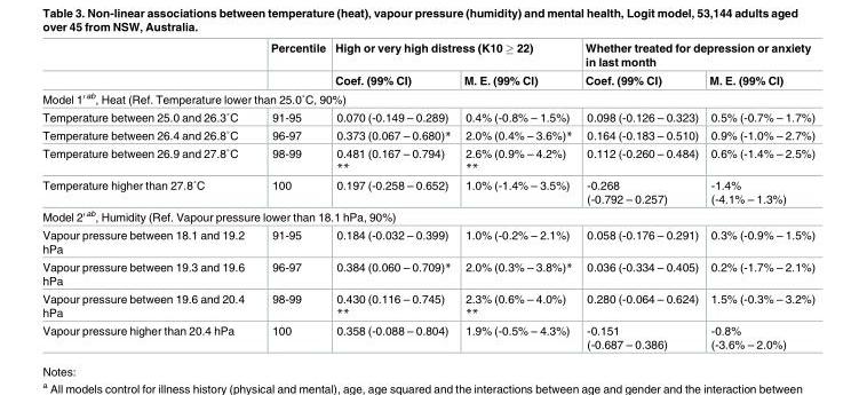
<table><thead><tr><td rowspan="2"></td><td rowspan="2">Percentile</td><td colspan="2">High or very high distress (K10 ≥ 22)</td><td colspan="2">Whether treated for depression or anxiety in last month</td></tr><tr><td>Coef. (99% CI)</td><td>M. E. (99% CI)</td><td>Coef. (99% CI)</td><td>M. E. (99% CI)</td></tr></thead><tbody><tr><td colspan="6">Model 1′ab, Heat (Ref. Temperature lower than 25.0˚C, 90%)</td></tr><tr><td>Temperature between 25.0 and 26.3˚C</td><td>91-95</td><td>0.070 (-0.149 – 0.289)</td><td>0.4% (-0.8% – 1.5%)</td><td>0.098 (-0.126 – 0.323)</td><td>0.5% (-0.7% – 1.7%)</td></tr><tr><td>Temperature between 26.4 and 26.8˚C</td><td>96-97</td><td>0.373 (0.067 – 0.680)*</td><td>2.0% (0.4% – 3.6%)*</td><td>0.164 (-0.183 – 0.510)</td><td>0.9% (-1.0% – 2.7%)</td></tr><tr><td>Temperature between 26.9 and 27.8˚C</td><td>98-99</td><td>0.481 (0.167 – 0.794) **</td><td>2.6% (0.9% – 4.2%) **</td><td>0.112 (-0.260 – 0.484)</td><td>0.6% (-1.4% – 2.5%)</td></tr><tr><td>Temperature higher than 27.8˚C</td><td>100</td><td>0.197 (-0.258 – 0.652)</td><td>1.0% (-1.4% – 3.5%)</td><td>-0.268 (-0.792 – 0.257)</td><td>-1.4% (-4.1% – 1.3%)</td></tr><tr><td colspan="6">Model 2′<sup>ab</sup>, Humidity (Ref. Vapour pressure lower than 18.1 hPa, 90%)</td></tr><tr><td>Vapour pressure between 18.1 and 19.2 hPa</td><td>91-95</td><td>0.184 (-0.032 – 0.399)</td><td>1.0% (-0.2% – 2.1%)</td><td>0.058 (-0.176 – 0.291)</td><td>0.3% (-0.9% – 1.5%)</td></tr><tr><td>Vapour pressure between 19.3 and 19.6 hPa</td><td>96-97</td><td>0.384 (0.060 – 0.709)*</td><td>2.0% (0.3% – 3.8%)*</td><td>0.036 (-0.334 – 0.405)</td><td>0.2% (-1.7% – 2.1%)</td></tr><tr><td>Vapour pressure between 19.6 and 20.4 hPa</td><td>98-99</td><td>0.430 (0.116 – 0.745) **</td><td>2.3% (0.6% – 4.0%) **</td><td>0.280 (-0.064 – 0.624)</td><td>1.5% (-0.3% – 3.2%)</td></tr><tr><td>Vapour pressure higher than 20.4 hPa</td><td>100</td><td>0.358 (-0.088 – 0.804)</td><td>1.9% (-0.5% – 4.3%)</td><td>-0.151 (-0.687 – 0.386)</td><td>-0.8% (-3.6% – 2.0%)</td></tr></tbody></table>